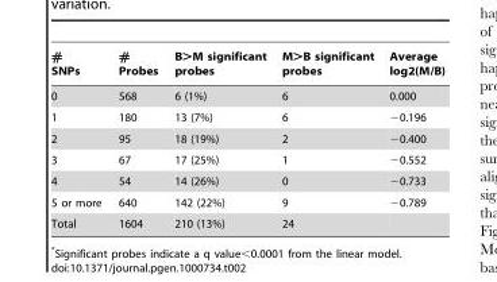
<table><thead><tr><td># SNPs</td><td># Probes</td><td>B&gt;M significant probes</td><td>M&gt;B significant probes</td><td>Average log2(M/B)</td></tr></thead><tbody><tr><td>0</td><td>568</td><td>6 (1%)</td><td>6</td><td>0.000</td></tr><tr><td>1</td><td>180</td><td>13 (7%)</td><td>6</td><td>−0.196</td></tr><tr><td>2</td><td>95</td><td>18 (19%)</td><td>2</td><td>−0.400</td></tr><tr><td>3</td><td>67</td><td>17 (25%)</td><td>1</td><td>−0.552</td></tr><tr><td>4</td><td>54</td><td>14 (26%)</td><td>0</td><td>−0.733</td></tr><tr><td>5 or more</td><td>640</td><td>142 (22%)</td><td>9</td><td>−0.789</td></tr><tr><td>Total</td><td>1604</td><td>210 (13%)</td><td>24</td><td></td></tr></tbody></table>